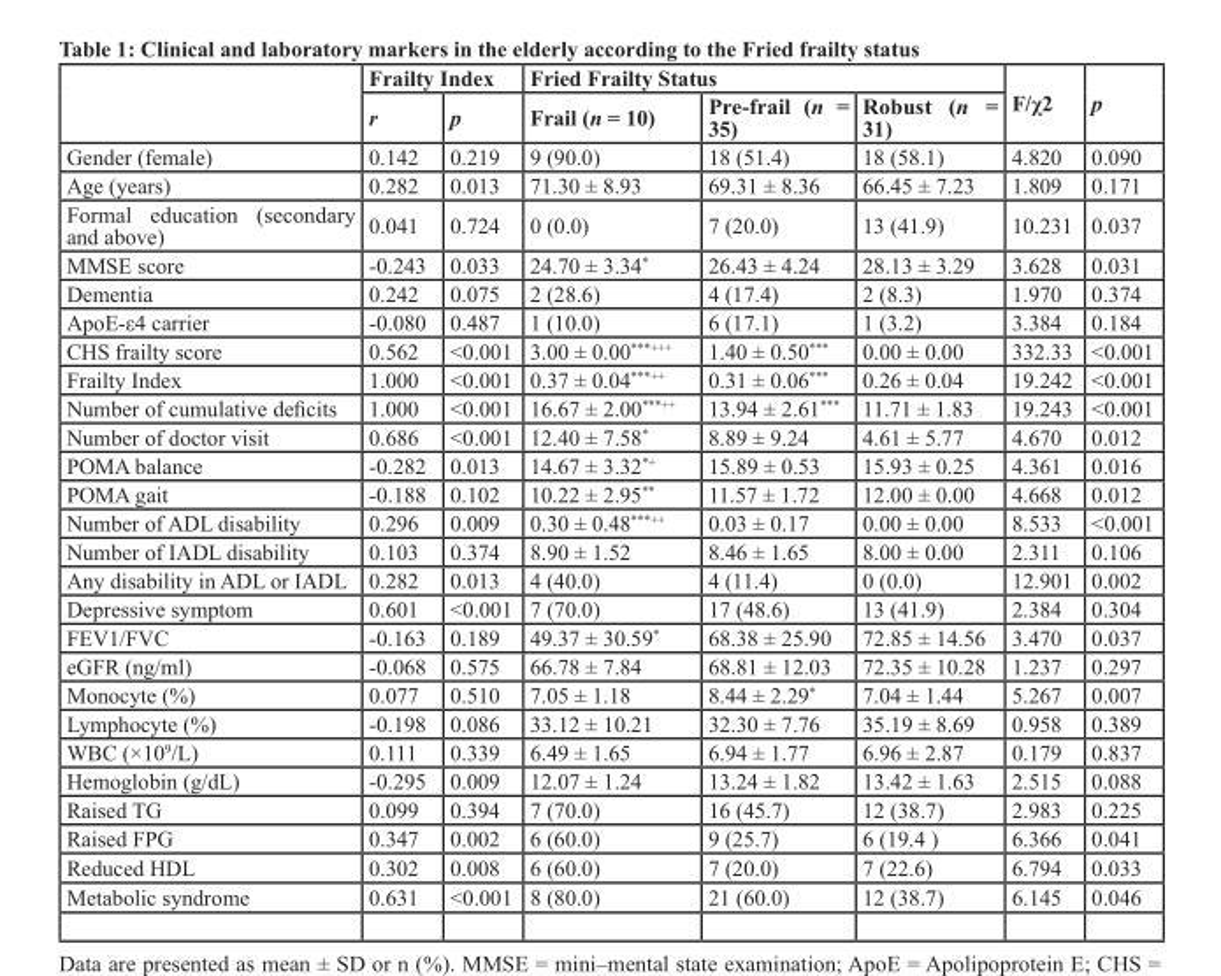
<table><thead><tr><td rowspan="2"></td><td colspan="2">Frailty Index</td><td colspan="3">Fried Frailty Status</td><td rowspan="2">F/χ2</td><td rowspan="2">p</td></tr><tr><td>r</td><td>p</td><td>Frail (n = 10)</td><td>Pre-frail (n = 35)</td><td>Robust (n = 31)</td></tr></thead><tbody><tr><td>Gender (female)</td><td>0.142</td><td>0.219</td><td>9 (90.0)</td><td>18 (51.4)</td><td>18 (58.1)</td><td>4.820</td><td>0.090</td></tr><tr><td>Age (years)</td><td>0.282</td><td>0.013</td><td>71.30 ± 8.93</td><td>69.31 ± 8.36</td><td>66.45 ± 7.23</td><td>1.809</td><td>0.171</td></tr><tr><td>Formal education (secondary and above)</td><td>0.041</td><td>0.724</td><td>0 (0.0)</td><td>7 (20.0)</td><td>13 (41.9)</td><td>10.231</td><td>0.037</td></tr><tr><td>MMSE score</td><td>-0.243</td><td>0.033</td><td>24.70 ± 3.34*</td><td>26.43 ± 4.24</td><td>28.13 ± 3.29</td><td>3.628</td><td>0.031</td></tr><tr><td>Dementia</td><td>0.242</td><td>0.075</td><td>2 (28.6)</td><td>4 (17.4)</td><td>2 (8.3)</td><td>1.970</td><td>0.374</td></tr><tr><td>ApoE-ε4 carrier</td><td>-0.080</td><td>0.487</td><td>1 (10.0)</td><td>6 (17.1)</td><td>1 (3.2)</td><td>3.384</td><td>0.184</td></tr><tr><td>CHS frailty score</td><td>0.562</td><td>&lt;0.001</td><td>3.00 ± 0.00<sup>***+++</sup></td><td>1.40 ± 0.50***</td><td>0.00 ± 0.00</td><td>332.33</td><td>&lt;0.001</td></tr><tr><td>Frailty Index</td><td>1.000</td><td>&lt;0.001</td><td>0.37 ± 0.04<sup>***++</sup></td><td>0.31 ± 0.06***</td><td>0.26 ± 0.04</td><td>19.242</td><td>&lt;0.001</td></tr><tr><td>Number of cumulative deficits</td><td>1.000</td><td>&lt;0.001</td><td>16.67 ± 2.00<sup>***++</sup></td><td>13.94 ± 2.61***</td><td>11.71 ± 1.83</td><td>19.243</td><td>&lt;0.001</td></tr><tr><td>Number of doctor visit</td><td>0.686</td><td>&lt;0.001</td><td>12.40 ± 7.58*</td><td>8.89 ± 9.24</td><td>4.61 ± 5.77</td><td>4.670</td><td>0.012</td></tr><tr><td>POMA balance</td><td>-0.282</td><td>0.013</td><td>14.67 ± 3.32<sup>*+</sup></td><td>15.89 ± 0.53</td><td>15.93 ± 0.25</td><td>4.361</td><td>0.016</td></tr><tr><td>POMA gait</td><td>-0.188</td><td>0.102</td><td>10.22 ± 2.95**</td><td>11.57 ± 1.72</td><td>12.00 ± 0.00</td><td>4.668</td><td>0.012</td></tr><tr><td>Number of ADL disability</td><td>0.296</td><td>0.009</td><td>0.30 ± 0.48<sup>***++</sup></td><td>0.03 ± 0.17</td><td>0.00 ± 0.00</td><td>8.533</td><td>&lt;0.001</td></tr><tr><td>Number of IADL disability</td><td>0.103</td><td>0.374</td><td>8.90 ± 1.52</td><td>8.46 ± 1.65</td><td>8.00 ± 0.00</td><td>2.311</td><td>0.106</td></tr><tr><td>Any disability in ADL or IADL</td><td>0.282</td><td>0.013</td><td>4 (40.0)</td><td>4 (11.4)</td><td>0 (0.0)</td><td>12.901</td><td>0.002</td></tr><tr><td>Depressive symptom</td><td>0.601</td><td>&lt;0.001</td><td>7 (70.0)</td><td>17 (48.6)</td><td>13 (41.9)</td><td>2.384</td><td>0.304</td></tr><tr><td>FEV1/FVC</td><td>-0.163</td><td>0.189</td><td>49.37 ± 30.59*</td><td>68.38 ± 25.90</td><td>72.85 ± 14.56</td><td>3.470</td><td>0.037</td></tr><tr><td>eGFR (ng/ml)</td><td>-0.068</td><td>0.575</td><td>66.78 ± 7.84</td><td>68.81 ± 12.03</td><td>72.35 ± 10.28</td><td>1.237</td><td>0.297</td></tr><tr><td>Monocyte (%)</td><td>0.077</td><td>0.510</td><td>7.05 ± 1.18</td><td>8.44 ± 2.29*</td><td>7.04 ± 1.44</td><td>5.267</td><td>0.007</td></tr><tr><td>Lymphocyte (%)</td><td>-0.198</td><td>0.086</td><td>33.12 ± 10.21</td><td>32.30 ± 7.76</td><td>35.19 ± 8.69</td><td>0.958</td><td>0.389</td></tr><tr><td>WBC (×10<sup>9</sup>/L)</td><td>0.111</td><td>0.339</td><td>6.49 ± 1.65</td><td>6.94 ± 1.77</td><td>6.96 ± 2.87</td><td>0.179</td><td>0.837</td></tr><tr><td>Hemoglobin (g/dL)</td><td>-0.295</td><td>0.009</td><td>12.07 ± 1.24</td><td>13.24 ± 1.82</td><td>13.42 ± 1.63</td><td>2.515</td><td>0.088</td></tr><tr><td>Raised TG</td><td>0.099</td><td>0.394</td><td>7 (70.0)</td><td>16 (45.7)</td><td>12 (38.7)</td><td>2.983</td><td>0.225</td></tr><tr><td>Raised FPG</td><td>0.347</td><td>0.002</td><td>6 (60.0)</td><td>9 (25.7)</td><td>6 (19.4 )</td><td>6.366</td><td>0.041</td></tr><tr><td>Reduced HDL</td><td>0.302</td><td>0.008</td><td>6 (60.0)</td><td>7 (20.0)</td><td>7 (22.6)</td><td>6.794</td><td>0.033</td></tr><tr><td>Metabolic syndrome</td><td>0.631</td><td>&lt;0.001</td><td>8 (80.0)</td><td>21 (60.0)</td><td>12 (38.7)</td><td>6.145</td><td>0.046</td></tr></tbody></table>